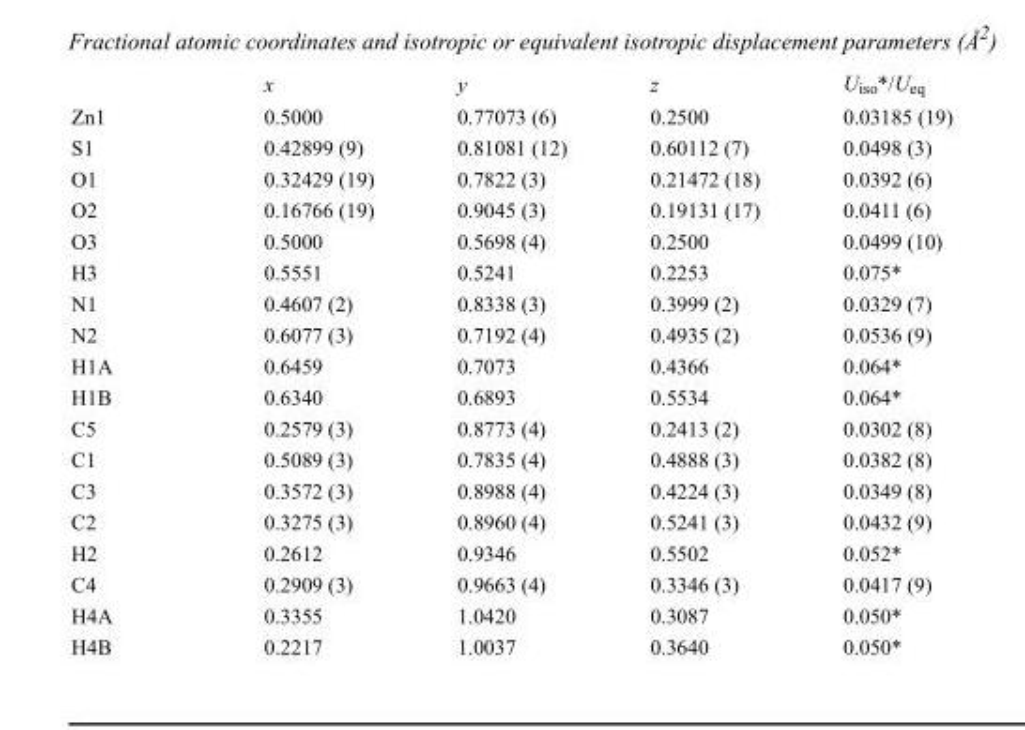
<table><thead><tr><td></td><td>x</td><td>y</td><td>z</td><td>U<sub>iso</sub>*/U<sub>eq</sub></td></tr></thead><tbody><tr><td>Zn1</td><td>0.5000</td><td>0.77073 (6)</td><td>0.2500</td><td>0.03185 (19)</td></tr><tr><td>S1</td><td>0.42899 (9)</td><td>0.81081 (12)</td><td>0.60112 (7)</td><td>0.0498 (3)</td></tr><tr><td>O1</td><td>0.32429 (19)</td><td>0.7822 (3)</td><td>0.21472 (18)</td><td>0.0392 (6)</td></tr><tr><td>O2</td><td>0.16766 (19)</td><td>0.9045 (3)</td><td>0.19131 (17)</td><td>0.0411 (6)</td></tr><tr><td>O3</td><td>0.5000</td><td>0.5698 (4)</td><td>0.2500</td><td>0.0499 (10)</td></tr><tr><td>H3</td><td>0.5551</td><td>0.5241</td><td>0.2253</td><td>0.075*</td></tr><tr><td>N1</td><td>0.4607 (2)</td><td>0.8338 (3)</td><td>0.3999 (2)</td><td>0.0329 (7)</td></tr><tr><td>N2</td><td>0.6077 (3)</td><td>0.7192 (4)</td><td>0.4935 (2)</td><td>0.0536 (9)</td></tr><tr><td>H1A</td><td>0.6459</td><td>0.7073</td><td>0.4366</td><td>0.064*</td></tr><tr><td>H1B</td><td>0.6340</td><td>0.6893</td><td>0.5534</td><td>0.064*</td></tr><tr><td>C5</td><td>0.2579 (3)</td><td>0.8773 (4)</td><td>0.2413 (2)</td><td>0.0302 (8)</td></tr><tr><td>C1</td><td>0.5089 (3)</td><td>0.7835 (4)</td><td>0.4888 (3)</td><td>0.0382 (8)</td></tr><tr><td>C3</td><td>0.3572 (3)</td><td>0.8988 (4)</td><td>0.4224 (3)</td><td>0.0349 (8)</td></tr><tr><td>C2</td><td>0.3275 (3)</td><td>0.8960 (4)</td><td>0.5241 (3)</td><td>0.0432 (9)</td></tr><tr><td>H2</td><td>0.2612</td><td>0.9346</td><td>0.5502</td><td>0.052*</td></tr><tr><td>C4</td><td>0.2909 (3)</td><td>0.9663 (4)</td><td>0.3346 (3)</td><td>0.0417 (9)</td></tr><tr><td>H4A</td><td>0.3355</td><td>1.0420</td><td>0.3087</td><td>0.050*</td></tr><tr><td>H4B</td><td>0.2217</td><td>1.0037</td><td>0.3640</td><td>0.050*</td></tr></tbody></table>